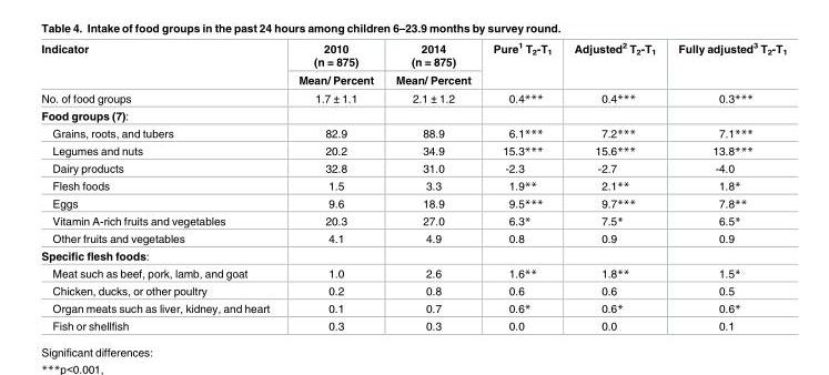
<table><thead><tr><td rowspan="2">Indicator</td><td rowspan="2">2010 (n = 875) Mean/ Percent</td><td rowspan="2">2014 (n = 875) Mean/ Percent</td><td rowspan="2">Pure<sup>1</sup> T<sub>2</sub>-T<sub>1</sub></td><td rowspan="2">Adjusted<sup>2</sup> T<sub>2</sub>-T<sub>1</sub></td><td rowspan="2">Fully adjusted<sup>3</sup> T<sub>2</sub>-T<sub>1</sub></td></tr><tr></tr></thead><tbody><tr><td>No. of food groups</td><td>1.7 ± 1.1</td><td>2.1 ± 1.2</td><td>0.4***</td><td>0.4***</td><td>0.3***</td></tr><tr><td colspan="6">Food groups (7):</td></tr><tr><td>Grains, roots, and tubers</td><td>82.9</td><td>88.9</td><td>6.1***</td><td>7.2***</td><td>7.1***</td></tr><tr><td>Legumes and nuts</td><td>20.2</td><td>34.9</td><td>15.3***</td><td>15.6***</td><td>13.8***</td></tr><tr><td>Dairy products</td><td>32.8</td><td>31.0</td><td>-2.3</td><td>-2.7</td><td>-4.0</td></tr><tr><td>Flesh foods</td><td>1.5</td><td>3.3</td><td>1.9**</td><td>2.1**</td><td>1.8*</td></tr><tr><td>Eggs</td><td>9.6</td><td>18.9</td><td>9.5***</td><td>9.7***</td><td>7.8**</td></tr><tr><td>Vitamin A-rich fruits and vegetables</td><td>20.3</td><td>27.0</td><td>6.3*</td><td>7.5*</td><td>6.5*</td></tr><tr><td>Other fruits and vegetables</td><td>4.1</td><td>4.9</td><td>0.8</td><td>0.9</td><td>0.9</td></tr><tr><td colspan="6">Specific flesh foods:</td></tr><tr><td>Meat such as beef, pork, lamb, and goat</td><td>1.0</td><td>2.6</td><td>1.6**</td><td>1.8**</td><td>1.5*</td></tr><tr><td>Chicken, ducks, or other poultry</td><td>0.2</td><td>0.8</td><td>0.6</td><td>0.6</td><td>0.5</td></tr><tr><td>Organ meats such as liver, kidney, and heart</td><td>0.1</td><td>0.7</td><td>0.6*</td><td>0.6*</td><td>0.6*</td></tr><tr><td>Fish or shellfish</td><td>0.3</td><td>0.3</td><td>0.0</td><td>0.0</td><td>0.1</td></tr></tbody></table>